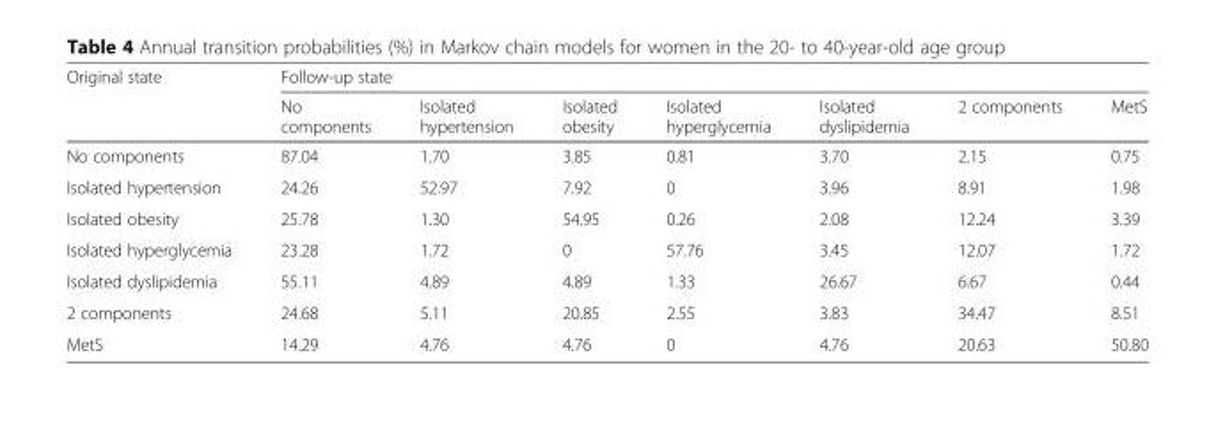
<table><thead><tr><td rowspan="2">Original state</td><td colspan="7">Follow-up state</td></tr><tr><td>No components</td><td>Isolated hypertension</td><td>Isolated obesity</td><td>Isolated hyperglycemia</td><td>Isolated dyslipidemia</td><td>2 components</td><td>MetS</td></tr></thead><tbody><tr><td>No components</td><td>87.04</td><td>1.70</td><td>3.85</td><td>0.81</td><td>3.70</td><td>2.15</td><td>0.75</td></tr><tr><td>Isolated hypertension</td><td>24.26</td><td>52.97</td><td>7.92</td><td>0</td><td>3.96</td><td>8.91</td><td>1.98</td></tr><tr><td>Isolated obesity</td><td>25.78</td><td>1.30</td><td>54.95</td><td>0.26</td><td>2.08</td><td>12.24</td><td>3.39</td></tr><tr><td>Isolated hyperglycemia</td><td>23.28</td><td>1.72</td><td>0</td><td>57.76</td><td>3.45</td><td>12.07</td><td>1.72</td></tr><tr><td>Isolated dyslipidemia</td><td>55.11</td><td>4.89</td><td>4.89</td><td>1.33</td><td>26.67</td><td>6.67</td><td>0.44</td></tr><tr><td>2 components</td><td>24.68</td><td>5.11</td><td>20.85</td><td>2.55</td><td>3.83</td><td>34.47</td><td>8.51</td></tr><tr><td>MetS</td><td>14.29</td><td>4.76</td><td>4.76</td><td>0</td><td>4.76</td><td>20.63</td><td>50.80</td></tr></tbody></table>